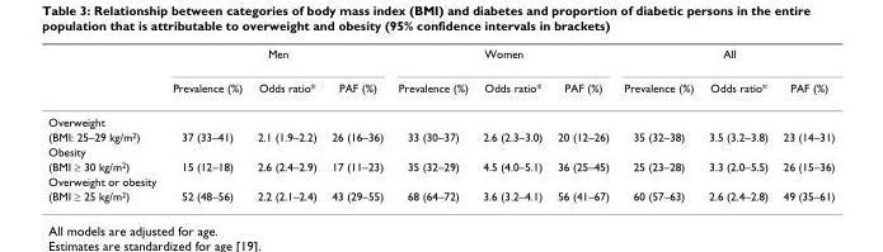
<table><thead><tr><td rowspan="2"></td><td colspan="3">Men</td><td colspan="3">Women</td><td colspan="3">All</td></tr><tr><td>Prevalence (%)</td><td>Odds ratio*</td><td>PAF (%)</td><td>Prevalence (%)</td><td>Odds ratio*</td><td>PAF (%)</td><td>Prevalence (%)</td><td>Odds ratio*</td><td>PAF (%)</td></tr></thead><tbody><tr><td colspan="10">Overweight</td></tr><tr><td>(BMI: 25–29 kg/m<sup>2</sup>)</td><td>37 (33–41)</td><td>2.1 (1.9–2.2)</td><td>26 (16–36)</td><td>33 (30–37)</td><td>2.6 (2.3–3.0)</td><td>20 (12–26)</td><td>35 (32–38)</td><td>3.5 (3.2–3.8)</td><td>23 (14–31)</td></tr><tr><td colspan="10">Obesity</td></tr><tr><td>(BMI ≥ 30 kg/m<sup>2</sup>)</td><td>15 (12–18)</td><td>2.6 (2.4–2.9)</td><td>17 (11–23)</td><td>35 (32–29)</td><td>4.5 (4.0–5.1)</td><td>36 (25–45)</td><td>25 (23–28)</td><td>3.3 (2.0–5.5)</td><td>26 (15–36)</td></tr><tr><td colspan="10">Overweight or obesity</td></tr><tr><td>(BMI ≥ 25 kg/m<sup>2</sup>)</td><td>52 (48–56)</td><td>2.2 (2.1–2.4)</td><td>43 (29–55)</td><td>68 (64–72)</td><td>3.6 (3.2–4.1)</td><td>56 (41–67)</td><td>60 (57–63)</td><td>2.6 (2.4–2.8)</td><td>49 (35–61)</td></tr></tbody></table>